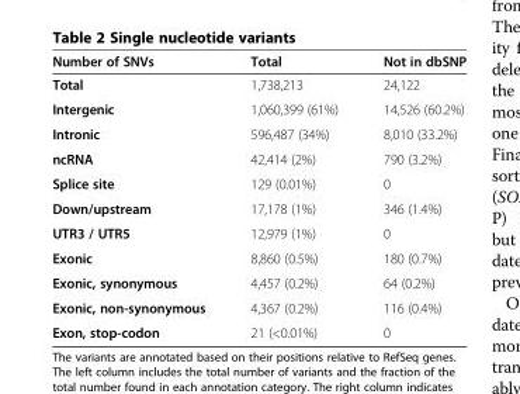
<table><thead><tr><td>Number of SNVs</td><td>Total</td><td>Not in dbSNP</td></tr></thead><tbody><tr><td>Total</td><td>1,738,213</td><td>24,122</td></tr><tr><td>Intergenic</td><td>1,060,399 (61%)</td><td>14,526 (60.2%)</td></tr><tr><td>Intronic</td><td>596,487 (34%)</td><td>8,010 (33.2%)</td></tr><tr><td>ncRNA</td><td>42,414 (2%)</td><td>790 (3.2%)</td></tr><tr><td>Splice site</td><td>129 (0.01%)</td><td>0</td></tr><tr><td>Down/upstream</td><td>17,178 (1%)</td><td>346 (1.4%)</td></tr><tr><td>UTR3 / UTR5</td><td>12,979 (1%)</td><td>0</td></tr><tr><td>Exonic</td><td>8,860 (0.5%)</td><td>180 (0.7%)</td></tr><tr><td>Exonic, synonymous</td><td>4,457 (0.2%)</td><td>64 (0.2%)</td></tr><tr><td>Exonic, non-synonymous</td><td>4,367 (0.2%)</td><td>116 (0.4%)</td></tr><tr><td>Exon, stop-codon</td><td>21 (&lt;0.01%)</td><td>0</td></tr></tbody></table>